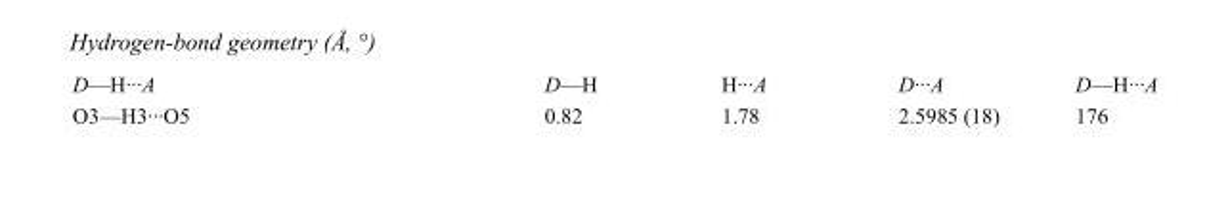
<table><tbody><tr><td>D—H···A</td><td>D—H</td><td>H···A</td><td>D···A</td><td>D—H···A</td></tr><tr><td>O3—H3···O5</td><td>0.82</td><td>1.78</td><td>2.5985 (18)</td><td>176</td></tr></tbody></table>